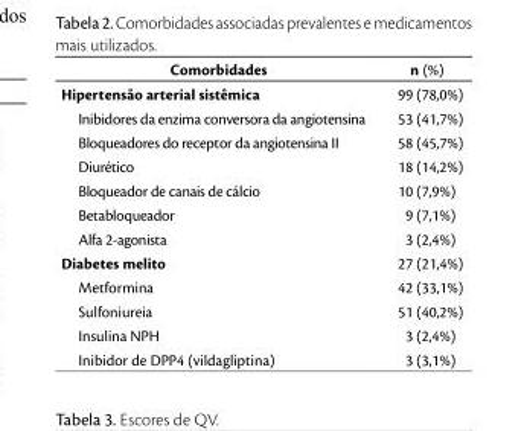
<table><thead><tr><td>Comorbidades</td><td>n (%)</td></tr></thead><tbody><tr><td>Hipertensão arterial sistêmica</td><td>99 (78,0%)</td></tr><tr><td>Inibidores da enzima conversora da angiotensina</td><td>53 (41,7%)</td></tr><tr><td>Bloqueadores do receptor da angiotensina II</td><td>58 (45,7%)</td></tr><tr><td>Diurético</td><td>18 (14,2%)</td></tr><tr><td>Bloqueador de canais de cálcio</td><td>10 (7,9%)</td></tr><tr><td>Betabloqueador</td><td>9 (7,1%)</td></tr><tr><td>Alfa 2-agonista</td><td>3 (2,4%)</td></tr><tr><td>Diabetes melito</td><td>27 (21,4%)</td></tr><tr><td>Metformina</td><td>42 (33,1%)</td></tr><tr><td>Sulfoniureia</td><td>51 (40,2%)</td></tr><tr><td>Insulina NPH</td><td>3 (2,4%)</td></tr><tr><td>Inibidor de DPP4 (vildagliptina)</td><td>3 (3,1%)</td></tr></tbody></table>